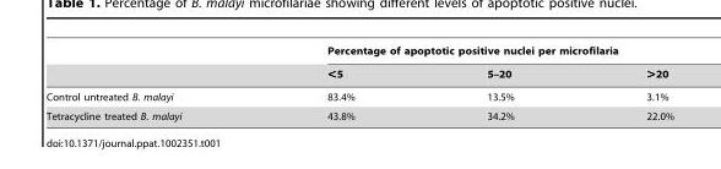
<table><thead><tr><td rowspan="2"></td><td colspan="3">Percentage of apoptotic positive nuclei per microfilaria</td></tr><tr><td>&lt;5</td><td>5–20</td><td>&gt;20</td></tr></thead><tbody><tr><td>Control untreated B. malayi</td><td>83.4%</td><td>13.5%</td><td>3.1%</td></tr><tr><td>Tetracycline treated B. malayi</td><td>43.8%</td><td>34.2%</td><td>22.0%</td></tr></tbody></table>